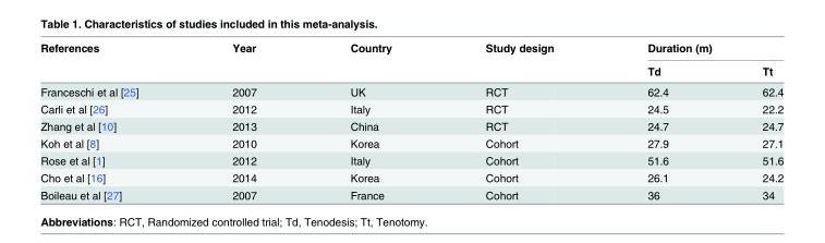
<table><thead><tr><td rowspan="2">References</td><td rowspan="2">Year</td><td rowspan="2">Country</td><td rowspan="2">Study design</td><td colspan="2">Duration (m)</td></tr><tr><td>Td</td><td>Tt</td></tr></thead><tbody><tr><td>Franceschi et al [25]</td><td>2007</td><td>UK</td><td>RCT</td><td>62.4</td><td>62.4</td></tr><tr><td>Carli et al [26]</td><td>2012</td><td>Italy</td><td>RCT</td><td>24.5</td><td>22.2</td></tr><tr><td>Zhang et al [10]</td><td>2013</td><td>China</td><td>RCT</td><td>24.7</td><td>24.7</td></tr><tr><td>Koh et al [8]</td><td>2010</td><td>Korea</td><td>Cohort</td><td>27.9</td><td>27.1</td></tr><tr><td>Rose et al [1]</td><td>2012</td><td>Italy</td><td>Cohort</td><td>51.6</td><td>51.6</td></tr><tr><td>Cho et al [16]</td><td>2014</td><td>Korea</td><td>Cohort</td><td>26.1</td><td>24.2</td></tr><tr><td>Boileau et al [27]</td><td>2007</td><td>France</td><td>Cohort</td><td>36</td><td>34</td></tr></tbody></table>